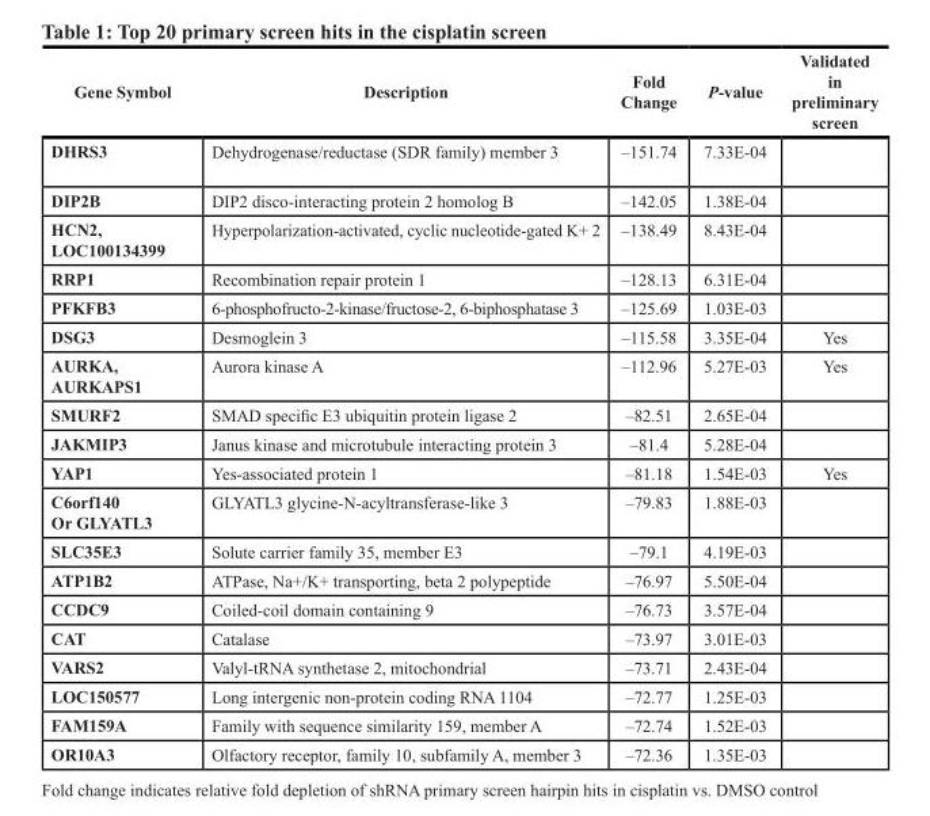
<table><thead><tr><td>Gene Symbol</td><td>Description</td><td>Fold Change</td><td>P-value</td><td>Validated in preliminary screen</td></tr></thead><tbody><tr><td>DHRS3</td><td>Dehydrogenase/reductase (SDR family) member 3</td><td>–151.74</td><td>7.33E-04</td><td></td></tr><tr><td>DIP2B</td><td>DIP2 disco-interacting protein 2 homolog B</td><td>–142.05</td><td>1.38E-04</td><td></td></tr><tr><td>HCN2, LOC100134399</td><td>Hyperpolarization-activated, cyclic nucleotide-gated K+ 2</td><td>–138.49</td><td>8.43E-04</td><td></td></tr><tr><td>RRP1</td><td>Recombination repair protein 1</td><td>–128.13</td><td>6.31E-04</td><td></td></tr><tr><td>PFKFB3</td><td>6-phosphofructo-2-kinase/fructose-2, 6-biphosphatase 3</td><td>–125.69</td><td>1.03E-03</td><td></td></tr><tr><td>DSG3</td><td>Desmoglein 3</td><td>–115.58</td><td>3.35E-04</td><td>Yes</td></tr><tr><td>AURKA, AURKAPS1</td><td>Aurora kinase A</td><td>–112.96</td><td>5.27E-03</td><td>Yes</td></tr><tr><td>SMURF2</td><td>SMAD specific E3 ubiquitin protein ligase 2</td><td>–82.51</td><td>2.65E-04</td><td></td></tr><tr><td>JAKMIP3</td><td>Janus kinase and microtubule interacting protein 3</td><td>–81.4</td><td>5.28E-04</td><td></td></tr><tr><td>YAP1</td><td>Yes-associated protein 1</td><td>–81.18</td><td>1.54E-03</td><td>Yes</td></tr><tr><td>C6orf140 Or GLYATL3</td><td>GLYATL3 glycine-N-acyltransferase-like 3</td><td>–79.83</td><td>1.88E-03</td><td></td></tr><tr><td>SLC35E3</td><td>Solute carrier family 35, member E3</td><td>–79.1</td><td>4.19E-03</td><td></td></tr><tr><td>ATP1B2</td><td>ATPase, Na+/K+ transporting, beta 2 polypeptide</td><td>–76.97</td><td>5.50E-04</td><td></td></tr><tr><td>CCDC9</td><td>Coiled-coil domain containing 9</td><td>–76.73</td><td>3.57E-04</td><td></td></tr><tr><td>CAT</td><td>Catalase</td><td>–73.97</td><td>3.01E-03</td><td></td></tr><tr><td>VARS2</td><td>Valyl-tRNA synthetase 2, mitochondrial</td><td>–73.71</td><td>2.43E-04</td><td></td></tr><tr><td>LOC150577</td><td>Long intergenic non-protein coding RNA 1104</td><td>–72.77</td><td>1.25E-03</td><td></td></tr><tr><td>FAM159A</td><td>Family with sequence similarity 159, member A</td><td>–72.74</td><td>1.52E-03</td><td></td></tr><tr><td>OR10A3</td><td>Olfactory receptor, family 10, subfamily A, member 3</td><td>–72.36</td><td>1.35E-03</td><td></td></tr></tbody></table>